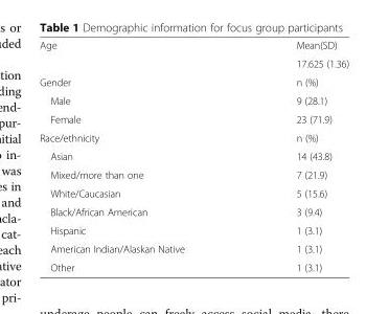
<table><tbody><tr><td rowspan="2">Age</td><td>Mean(SD)</td></tr><tr><td>17.625 (1.36)</td></tr><tr><td>Gender</td><td>n (%)</td></tr><tr><td>Male</td><td>9 (28.1)</td></tr><tr><td>Female</td><td>23 (71.9)</td></tr><tr><td>Race/ethnicity</td><td>n (%)</td></tr><tr><td>Asian</td><td>14 (43.8)</td></tr><tr><td>Mixed/more than one</td><td>7 (21.9)</td></tr><tr><td>White/Caucasian</td><td>5 (15.6)</td></tr><tr><td>Black/African American</td><td>3 (9.4)</td></tr><tr><td>Hispanic</td><td>1 (3.1)</td></tr><tr><td>American Indian/Alaskan Native</td><td>1 (3.1)</td></tr><tr><td>Other</td><td>1 (3.1)</td></tr></tbody></table>